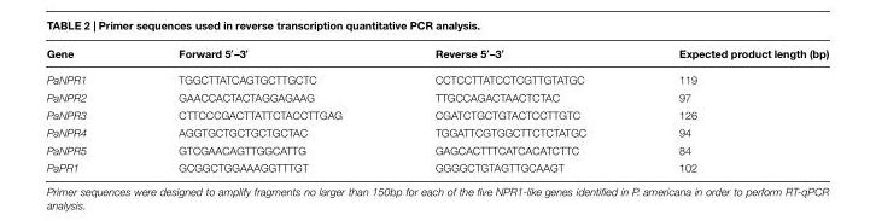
<table><thead><tr><td>Gene</td><td>Forward 5′–3′</td><td>Reverse 5′–3′</td><td>Expected product length (bp)</td></tr></thead><tbody><tr><td>PaNPR1</td><td>TGGCTTATCAGTGCTTGCTC</td><td>CCTCCTTATCCTCGTTGTATGC</td><td>119</td></tr><tr><td>PaNPR2</td><td>GAACCACTACTAGGAGAAG</td><td>TTGCCAGACTAACTCTAC</td><td>97</td></tr><tr><td>PaNPR3</td><td>CTTCCCGACTTATTCTACCTTGAG</td><td>CGATCTGCTGTACTCCTTGTC</td><td>126</td></tr><tr><td>PaNPR4</td><td>AGGTGCTGCTGCTGCTAC</td><td>TGGATTCGTGGCTTCTCTATGC</td><td>94</td></tr><tr><td>PaNPR5</td><td>GTCGAACAGTTGGCATTG</td><td>GAGCACTTTCATCACATCTTC</td><td>84</td></tr><tr><td>PaPR1</td><td>GCGGCTGGAAAGGTTTGT</td><td>GGGGCTGTAGTTGCAAGT</td><td>102</td></tr></tbody></table>